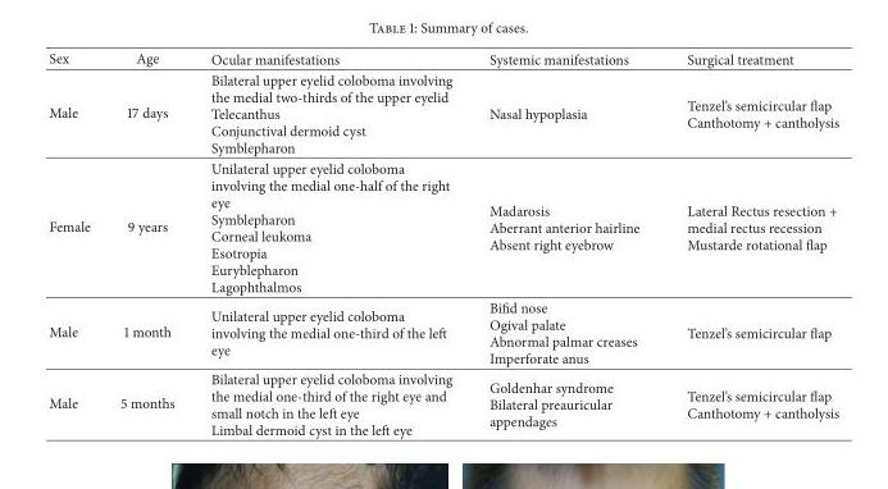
<table><thead><tr><td>Sex</td><td>Age</td><td>Ocular manifestations</td><td>Systemic manifestations</td><td>Surgical treatment</td></tr></thead><tbody><tr><td>Male</td><td>17 days</td><td>Bilateral upper eyelid coloboma involving the medial two-thirds of the upper eyelid Telecanthus Conjunctival dermoid cyst Symblepharon</td><td>Nasal hypoplasia</td><td>Tenzel’s semicircular flap Canthotomy + cantholysis</td></tr><tr><td>Female</td><td>9 years</td><td>Unilateral upper eyelid coloboma involving the medial one-half of the right eye Symblepharon Corneal leukoma Esotropia Euryblepharon Lagophthalmos</td><td>Madarosis Aberrant anterior hairline Absent right eyebrow</td><td>Lateral Rectus resection + medial rectus recession Mustarde rotational flap</td></tr><tr><td>Male</td><td>1 month</td><td>Unilateral upper eyelid coloboma involving the medial one-third of the left eye</td><td>Bifid nose Ogival palate Abnormal palmar creases Imperforate anus</td><td>Tenzel’s semicircular flap</td></tr><tr><td>Male</td><td>5 months</td><td>Bilateral upper eyelid coloboma involving the medial one-third of the right eye and small notch in the left eye Limbal dermoid cyst in the left eye</td><td>Goldenhar syndrome Bilateral preauricular appendages</td><td>Tenzel’s semicircular flap Canthotomy + cantholysis</td></tr></tbody></table>